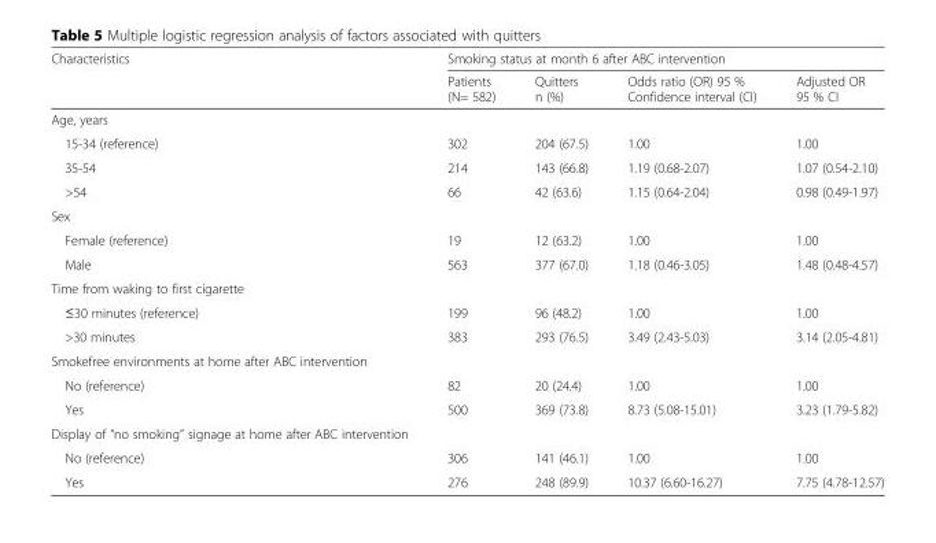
<table><thead><tr><td rowspan="2">Characteristics</td><td colspan="4">Smoking status at month 6 after ABC intervention</td></tr><tr><td>Patients (N= 582)</td><td>Quitters n (%)</td><td>Odds ratio (OR) 95 % Confidence interval (CI)</td><td>Adjusted OR 95 % CI</td></tr></thead><tbody><tr><td colspan="5">Age, years</td></tr><tr><td>15-34 (reference)</td><td>302</td><td>204 (67.5)</td><td>1.00</td><td>1.00</td></tr><tr><td>35-54</td><td>214</td><td>143 (66.8)</td><td>1.19 (0.68-2.07)</td><td>1.07 (0.54-2.10)</td></tr><tr><td>&gt;54</td><td>66</td><td>42 (63.6)</td><td>1.15 (0.64-2.04)</td><td>0.98 (0.49-1.97)</td></tr><tr><td colspan="5">Sex</td></tr><tr><td>Female (reference)</td><td>19</td><td>12 (63.2)</td><td>1.00</td><td>1.00</td></tr><tr><td>Male</td><td>563</td><td>377 (67.0)</td><td>1.18 (0.46-3.05)</td><td>1.48 (0.48-4.57)</td></tr><tr><td colspan="5">Time from waking to first cigarette</td></tr><tr><td>≤30 minutes (reference)</td><td>199</td><td>96 (48.2)</td><td>1.00</td><td>1.00</td></tr><tr><td>&gt;30 minutes</td><td>383</td><td>293 (76.5)</td><td>3.49 (2.43-5.03)</td><td>3.14 (2.05-4.81)</td></tr><tr><td colspan="5">Smokefree environments at home after ABC intervention</td></tr><tr><td>No (reference)</td><td>82</td><td>20 (24.4)</td><td>1.00</td><td>1.00</td></tr><tr><td>Yes</td><td>500</td><td>369 (73.8)</td><td>8.73 (5.08-15.01)</td><td>3.23 (1.79-5.82)</td></tr><tr><td colspan="5">Display of “no smoking” signage at home after ABC intervention</td></tr><tr><td>No (reference)</td><td>306</td><td>141 (46.1)</td><td>1.00</td><td>1.00</td></tr><tr><td>Yes</td><td>276</td><td>248 (89.9)</td><td>10.37 (6.60-16.27)</td><td>7.75 (4.78-12.57)</td></tr></tbody></table>